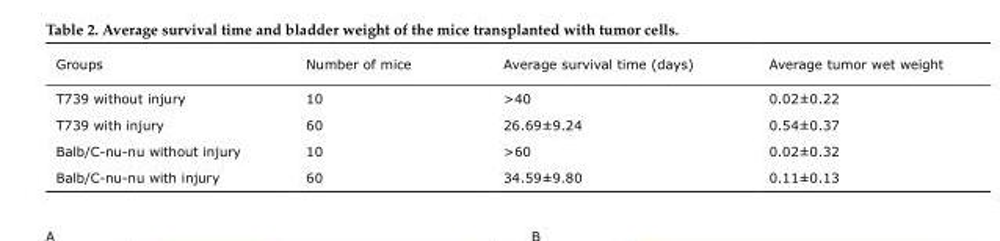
<table><thead><tr><td>Groups</td><td>Number of mice</td><td>Average survival time (days)</td><td>Average tumor wet weight</td></tr></thead><tbody><tr><td>T739 without injury</td><td>10</td><td>&gt;40</td><td>0.02±0.22</td></tr><tr><td>T739 with injury</td><td>60</td><td>26.69±9.24</td><td>0.54±0.37</td></tr><tr><td>Balb/C-nu-nu without injury</td><td>10</td><td>&gt;60</td><td>0.02±0.32</td></tr><tr><td>Balb/C-nu-nu with injury</td><td>60</td><td>34.59±9.80</td><td>0.11±0.13</td></tr></tbody></table>